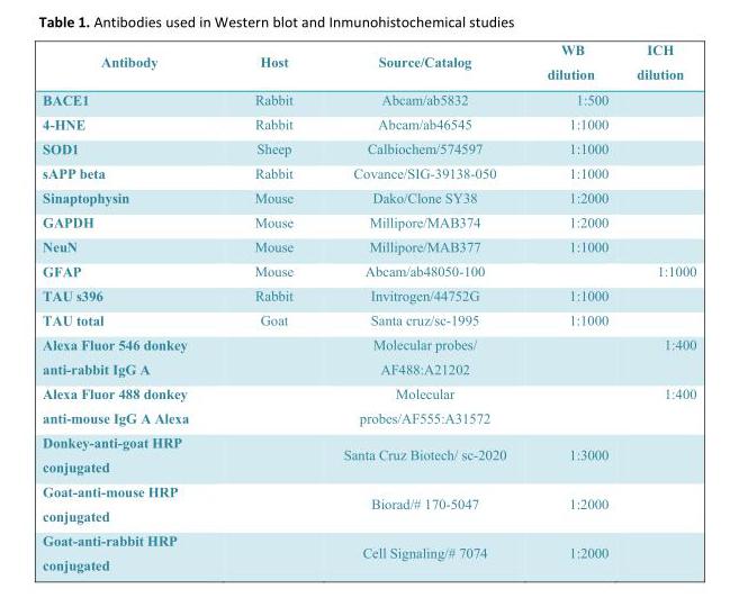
<table><thead><tr><td>Antibody</td><td>Host</td><td>Source/Catalog</td><td>WB dilution</td><td>ICH dilution</td></tr></thead><tbody><tr><td>BACE1</td><td>Rabbit</td><td>Abcam/ab5832</td><td>1:500</td><td></td></tr><tr><td>4-HNE</td><td>Rabbit</td><td>Abcam/ab46545</td><td>1:1000</td><td></td></tr><tr><td>SOD1</td><td>Sheep</td><td>Calbiochem/574597</td><td>1:1000</td><td></td></tr><tr><td>sAPP beta</td><td>Rabbit</td><td>Covance/SIG-39138-050</td><td>1:1000</td><td></td></tr><tr><td>Sinaptophysin</td><td>Mouse</td><td>Dako/Clone SY38</td><td>1:2000</td><td></td></tr><tr><td>GAPDH</td><td>Mouse</td><td>Millipore/MAB374</td><td>1:2000</td><td></td></tr><tr><td>NeuN</td><td>Mouse</td><td>Millipore/MAB377</td><td>1:1000</td><td></td></tr><tr><td>GFAP</td><td>Mouse</td><td>Abcam/ab48050-100</td><td></td><td>1:1000</td></tr><tr><td>TAU s396</td><td>Rabbit</td><td>Invitrogen/44752G</td><td>1:1000</td><td></td></tr><tr><td>TAU total</td><td>Goat</td><td>Santa cruz/sc-1995</td><td>1:1000</td><td></td></tr><tr><td>Alexa Fluor 546 donkey anti-rabbit IgG A</td><td></td><td>Molecular probes/ AF488:A21202</td><td></td><td>1:400</td></tr><tr><td>Alexa Fluor 488 donkey anti-mouse IgG A Alexa</td><td></td><td>Molecular probes/AF555:A31572</td><td></td><td>1:400</td></tr><tr><td>Donkey-anti-goat HRP conjugated</td><td></td><td>Santa Cruz Biotech/ sc-2020</td><td>1:3000</td><td></td></tr><tr><td>Goat-anti-mouse HRP conjugated</td><td></td><td>Biorad/# 170-5047</td><td>1:2000</td><td></td></tr><tr><td>Goat-anti-rabbit HRP conjugated</td><td></td><td>Cell Signaling/# 7074</td><td>1:2000</td><td></td></tr></tbody></table>